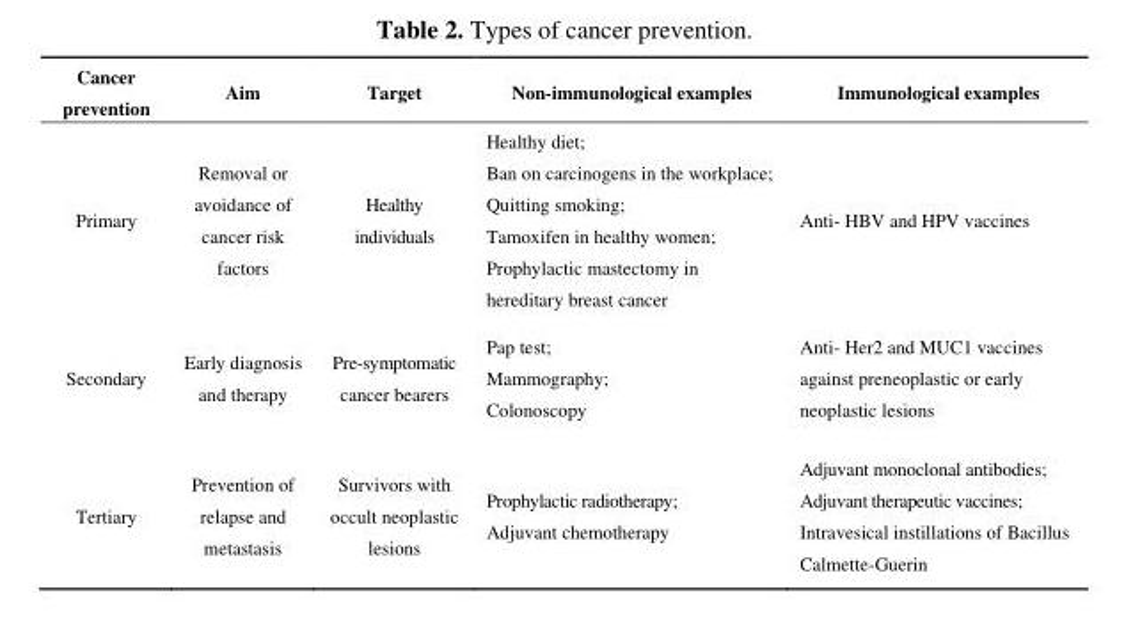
<table><thead><tr><td>Cancer prevention</td><td>Aim</td><td>Target</td><td>Non-immunological examples</td><td>Immunological examples</td></tr></thead><tbody><tr><td>Primary</td><td>Removal or avoidance of cancer risk factors</td><td>Healthy individuals</td><td>Healthy diet; Ban on carcinogens in the workplace; Quitting smoking; Tamoxifen in healthy women; Prophylactic mastectomy in hereditary breast cancer</td><td>Anti- HBV and HPV vaccines</td></tr><tr><td>Secondary</td><td>Early diagnosis and therapy</td><td>Pre-symptomatic cancer bearers</td><td>Pap test; Mammography; Colonoscopy</td><td>Anti- Her2 and MUC1 vaccines against preneoplastic or early neoplastic lesions</td></tr><tr><td>Tertiary</td><td>Prevention of relapse and metastasis</td><td>Survivors with occult neoplastic lesions</td><td>Prophylactic radiotherapy; Adjuvant chemotherapy</td><td>Adjuvant monoclonal antibodies; Adjuvant therapeutic vaccines; Intravesical instillations of Bacillus Calmette-Guerin</td></tr></tbody></table>